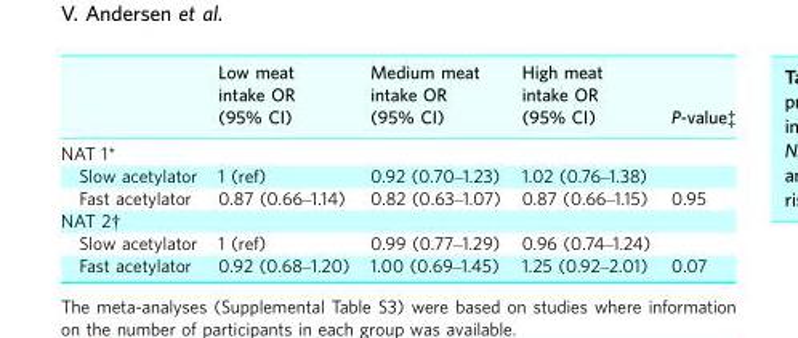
<table><thead><tr><td></td><td>Low meat intake OR (95% CI)</td><td>Medium meat intake OR (95% CI)</td><td>High meat intake OR (95% CI)</td><td>P-value‡</td></tr></thead><tbody><tr><td colspan="5">NAT 1*</td></tr><tr><td>Slow acetylator</td><td>1 (ref)</td><td>0.92 (0.70–1.23)</td><td>1.02 (0.76–1.38)</td><td></td></tr><tr><td>Fast acetylator</td><td>0.87 (0.66–1.14)</td><td>0.82 (0.63–1.07)</td><td>0.87 (0.66–1.15)</td><td>0.95</td></tr><tr><td colspan="5">NAT 2†</td></tr><tr><td>Slow acetylator</td><td>1 (ref)</td><td>0.99 (0.77–1.29)</td><td>0.96 (0.74–1.24)</td><td></td></tr><tr><td>Fast acetylator</td><td>0.92 (0.68–1.20)</td><td>1.00 (0.69–1.45)</td><td>1.25 (0.92–2.01)</td><td>0.07</td></tr></tbody></table>